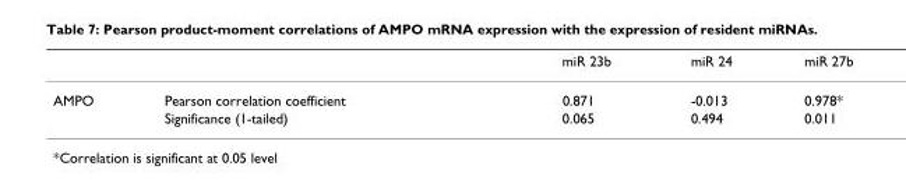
<table><thead><tr><td></td><td></td><td>miR 23b</td><td>miR 24</td><td>miR 27b</td></tr></thead><tbody><tr><td rowspan="2">AMPO</td><td>Pearson correlation coefficient</td><td>0.871</td><td>-0.013</td><td>0.978*</td></tr><tr><td>Significance (1-tailed)</td><td>0.065</td><td>0.494</td><td>0.011</td></tr></tbody></table>